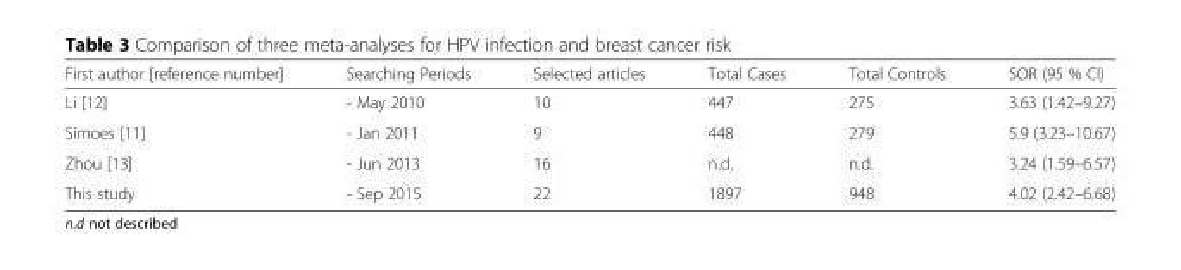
<table><thead><tr><td>First author [reference number]</td><td>Searching Periods</td><td>Selected articles</td><td>Total Cases</td><td>Total Controls</td><td>SOR (95 % CI)</td></tr></thead><tbody><tr><td>Li [12]</td><td>- May 2010</td><td>10</td><td>447</td><td>275</td><td>3.63 (1.42–9.27)</td></tr><tr><td>Simoes [11]</td><td>- Jan 2011</td><td>9</td><td>448</td><td>279</td><td>5.9 (3.23–10.67)</td></tr><tr><td>Zhou [13]</td><td>- Jun 2013</td><td>16</td><td>n.d.</td><td>n.d.</td><td>3.24 (1.59–6.57)</td></tr><tr><td>This study</td><td>- Sep 2015</td><td>22</td><td>1897</td><td>948</td><td>4.02 (2.42–6.68)</td></tr></tbody></table>